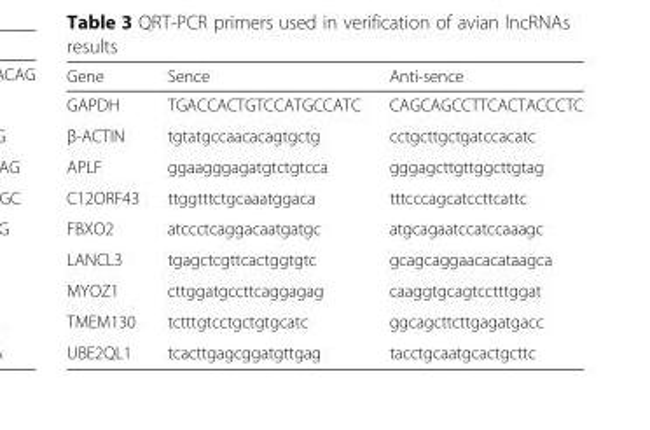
<table><thead><tr><td>Gene</td><td>Sence</td><td>Anti-sence</td></tr></thead><tbody><tr><td>GAPDH</td><td>TGACCACTGTCCATGCCATC</td><td>CAGCAGCCTTCACTACCCTC</td></tr><tr><td>β-ACTIN</td><td>tgtatgccaacacagtgctg</td><td>cctgcttgctgatccacatc</td></tr><tr><td>APLF</td><td>ggaagggagatgtctgtcca</td><td>gggagcttgttggcttgtag</td></tr><tr><td>C12ORF43</td><td>ttggtttctgcaaatggaca</td><td>tttcccagcatccttcattc</td></tr><tr><td>FBXO2</td><td>atccctcaggacaatgatgc</td><td>atgcagaatccatccaaagc</td></tr><tr><td>LANCL3</td><td>tgagctcgttcactggtgtc</td><td>gcagcaggaacacataagca</td></tr><tr><td>MYOZ1</td><td>cttggatgccttcaggagag</td><td>caaggtgcagtcctttggat</td></tr><tr><td>TMEM130</td><td>tctttgtcctgctgtgcatc</td><td>ggcagcttcttgagatgacc</td></tr><tr><td>UBE2QL1</td><td>tcacttgagcggatgttgag</td><td>tacctgcaatgcactgcttc</td></tr></tbody></table>